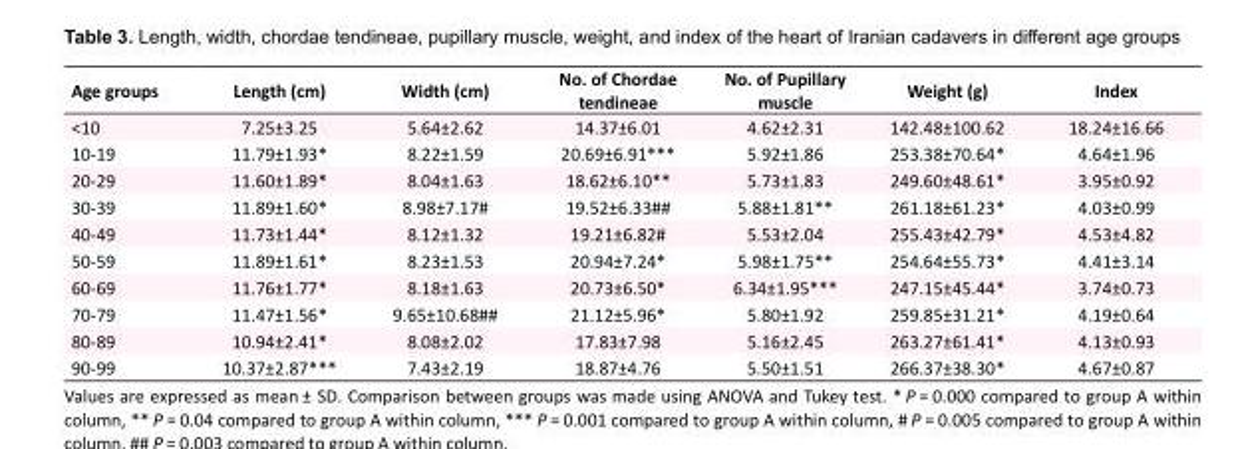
<table><tbody><tr><td>Age groups</td><td>Length (cm)</td><td>Width (cm)</td><td>No. of Chordae tendineae</td><td>No. of Pupillary muscle</td><td>Weight (g)</td><td>Index</td></tr><tr><td>&lt;10</td><td>7.25±3.25</td><td>5.64±2.62</td><td>14.37±6.01</td><td>4.62±2.31</td><td>142.48±100.62</td><td>18.24±16.66</td></tr><tr><td>10-19</td><td>11.79±1.93*</td><td>8.22±1.59</td><td>20.69±6.91***</td><td>5.92±1.86</td><td>253.38±70.64*</td><td>4.64±1.96</td></tr><tr><td>20-29</td><td>11.60±1.89*</td><td>8.04±1.63</td><td>18.62±6.10**</td><td>5.73±1.83</td><td>249.60±48.61*</td><td>3.95±0.92</td></tr><tr><td>30-39</td><td>11.89±1.60*</td><td>8.98±7.17#</td><td>19.52±6.33##</td><td>5.88±1.81**</td><td>261.18±61.23*</td><td>4.03±0.99</td></tr><tr><td>40-49</td><td>11.73±1.44*</td><td>8.12±1.32</td><td>19.21±6.82#</td><td>5.53±2.04</td><td>255.43±42.79*</td><td>4.53±4.82</td></tr><tr><td>50-59</td><td>11.89±1.61*</td><td>8.23±1.53</td><td>20.94±7.24*</td><td>5.98±1.75**</td><td>254.64±55.73*</td><td>4.41±3.14</td></tr><tr><td>60-69</td><td>11.76±1.77*</td><td>8.18±1.63</td><td>20.73±6.50*</td><td>6.34±1.95***</td><td>247.15±45.44*</td><td>3.74±0.73</td></tr><tr><td>70-79</td><td>11.47±1.56*</td><td>9.65±10.68##</td><td>21.12±5.96*</td><td>5.80±1.92</td><td>259.85±31.21*</td><td>4.19±0.64</td></tr><tr><td>80-89</td><td>10.94±2.41*</td><td>8.08±2.02</td><td>17.83±7.98</td><td>5.16±2.45</td><td>263.27±61.41*</td><td>4.13±0.93</td></tr><tr><td>90-99</td><td>10.37±2.87***</td><td>7.43±2.19</td><td>18.87±4.76</td><td>5.50±1.51</td><td>266.37±38.30*</td><td>4.67±0.87</td></tr></tbody></table>